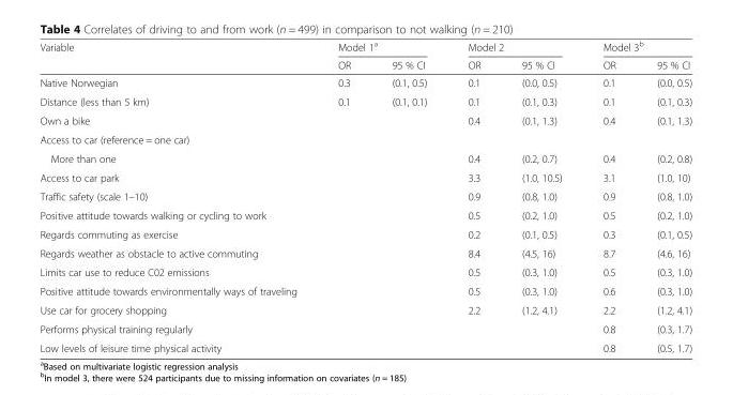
<table><thead><tr><td rowspan="2">Variable</td><td colspan="2">Model 1<sup>a</sup></td><td colspan="2">Model 2</td><td colspan="2">Model 3<sup>b</sup></td></tr><tr><td>OR</td><td>95 % CI</td><td>OR</td><td>95 % CI</td><td>OR</td><td>95 % CI</td></tr></thead><tbody><tr><td>Native Norwegian</td><td>0.3</td><td>(0.1, 0.5)</td><td>0.1</td><td>(0.0, 0.5)</td><td>0.1</td><td>(0.0, 0.5)</td></tr><tr><td>Distance (less than 5 km)</td><td>0.1</td><td>(0.1, 0.1)</td><td>0.1</td><td>(0.1, 0.3)</td><td>0.1</td><td>(0.1, 0.3)</td></tr><tr><td>Own a bike</td><td></td><td></td><td>0.4</td><td>(0.1, 1.3)</td><td>0.4</td><td>(0.1, 1.3)</td></tr><tr><td colspan="7">Access to car (reference = one car)</td></tr><tr><td>More than one</td><td></td><td></td><td>0.4</td><td>(0.2, 0.7)</td><td>0.4</td><td>(0.2, 0.8)</td></tr><tr><td>Access to car park</td><td></td><td></td><td>3.3</td><td>(1.0, 10.5)</td><td>3.1</td><td>(1.0, 10)</td></tr><tr><td>Traffic safety (scale 1–10)</td><td></td><td></td><td>0.9</td><td>(0.8, 1.0)</td><td>0.9</td><td>(0.8, 1.0)</td></tr><tr><td>Positive attitude towards walking or cycling to work</td><td></td><td></td><td>0.5</td><td>(0.2, 1.0)</td><td>0.5</td><td>(0.2, 1.0)</td></tr><tr><td>Regards commuting as exercise</td><td></td><td></td><td>0.2</td><td>(0.1, 0.5)</td><td>0.3</td><td>(0.1, 0.5)</td></tr><tr><td>Regards weather as obstacle to active commuting</td><td></td><td></td><td>8.4</td><td>(4.5, 16)</td><td>8.7</td><td>(4.6, 16)</td></tr><tr><td>Limits car use to reduce C02 emissions</td><td></td><td></td><td>0.5</td><td>(0.3, 1.0)</td><td>0.5</td><td>(0.3, 1.0)</td></tr><tr><td>Positive attitude towards environmentally ways of traveling</td><td></td><td></td><td>0.5</td><td>(0.3, 1.0)</td><td>0.6</td><td>(0.3, 1.0)</td></tr><tr><td>Use car for grocery shopping</td><td></td><td></td><td>2.2</td><td>(1.2, 4.1)</td><td>2.2</td><td>(1.2, 4.1)</td></tr><tr><td>Performs physical training regularly</td><td></td><td></td><td></td><td></td><td>0.8</td><td>(0.3, 1.7)</td></tr><tr><td>Low levels of leisure time physical activity</td><td></td><td></td><td></td><td></td><td>0.8</td><td>(0.5, 1.7)</td></tr></tbody></table>